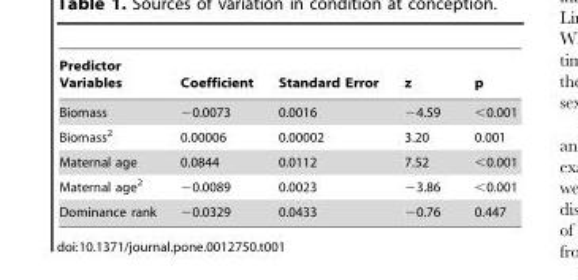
<table><thead><tr><td>Predictor Variables</td><td>Coefficient</td><td>Standard Error</td><td>z</td><td>p</td></tr></thead><tbody><tr><td>Biomass</td><td>−0.0073</td><td>0.0016</td><td>−4.59</td><td>&lt;0.001</td></tr><tr><td>Biomass<sup>2</sup></td><td>0.00006</td><td>0.00002</td><td>3.20</td><td>0.001</td></tr><tr><td>Maternal age</td><td>0.0844</td><td>0.0112</td><td>7.52</td><td>&lt;0.001</td></tr><tr><td>Maternal age<sup>2</sup></td><td>−0.0089</td><td>0.0023</td><td>−3.86</td><td>&lt;0.001</td></tr><tr><td>Dominance rank</td><td>−0.0329</td><td>0.0433</td><td>−0.76</td><td>0.447</td></tr></tbody></table>